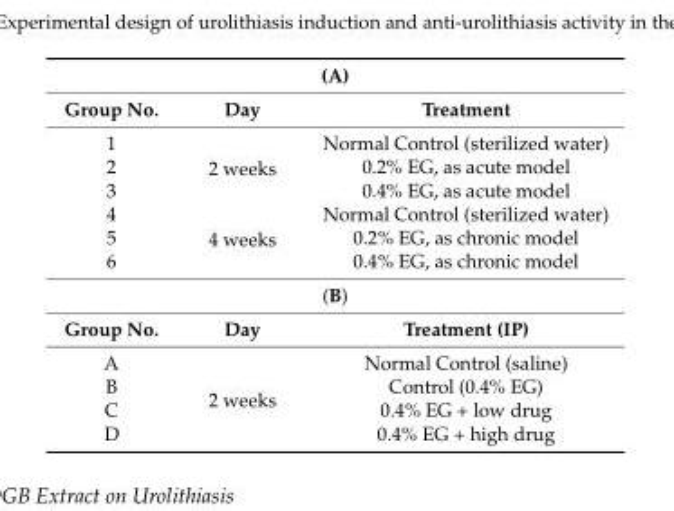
<table><thead><tr><td colspan="3">(A)</td></tr><tr><td>Group No.</td><td>Day</td><td>Treatment</td></tr></thead><tbody><tr><td>1</td><td rowspan="3">2 weeks</td><td>Normal Control (sterilized water)</td></tr><tr><td>2</td><td>0.2% EG, as acute model</td></tr><tr><td>3</td><td>0.4% EG, as acute model</td></tr><tr><td>4</td><td rowspan="3">4 weeks</td><td>Normal Control (sterilized water)</td></tr><tr><td>5</td><td>0.2% EG, as chronic model</td></tr><tr><td>6</td><td>0.4% EG, as chronic model</td></tr><tr><td colspan="3">(B)</td></tr><tr><td>Group No.</td><td>Day</td><td>Treatment (IP)</td></tr><tr><td>A</td><td rowspan="4">2 weeks</td><td>Normal Control (saline)</td></tr><tr><td>B</td><td>Control (0.4% EG)</td></tr><tr><td>C</td><td>0.4% EG + low drug</td></tr><tr><td>D</td><td>0.4% EG + high drug</td></tr></tbody></table>